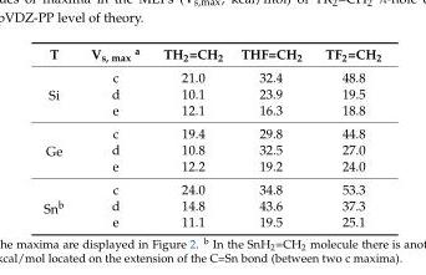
<table><thead><tr><td>T</td><td>V<sub>s, max</sub> <sup>a</sup></td><td>TH<sub>2</sub>=CH<sub>2</sub></td><td>THF=CH<sub>2</sub></td><td>TF<sub>2</sub>=CH<sub>2</sub></td></tr></thead><tbody><tr><td rowspan="3">Si</td><td>c</td><td>21.0</td><td>32.4</td><td>48.8</td></tr><tr><td>d</td><td>10.1</td><td>23.9</td><td>19.5</td></tr><tr><td>e</td><td>12.1</td><td>16.3</td><td>18.8</td></tr><tr><td rowspan="3">Ge</td><td>c</td><td>19.4</td><td>29.8</td><td>44.8</td></tr><tr><td>d</td><td>10.8</td><td>32.5</td><td>27.0</td></tr><tr><td>e</td><td>12.2</td><td>19.2</td><td>24.0</td></tr><tr><td rowspan="3">Sn<sup>b</sup></td><td>c</td><td>24.0</td><td>34.8</td><td>53.3</td></tr><tr><td>d</td><td>14.8</td><td>43.6</td><td>37.3</td></tr><tr><td>e</td><td>11.1</td><td>19.5</td><td>25.1</td></tr></tbody></table>